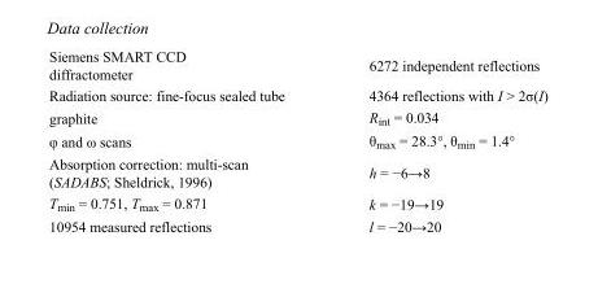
<table><tbody><tr><td>Siemens SMART CCD diffractometer</td><td>6272 independent reflections</td></tr><tr><td>Radiation source: fine-focus sealed tube</td><td>4364 reflections with I &gt; 2σ(I)</td></tr><tr><td>graphite</td><td>R<sub>int</sub> = 0.034</td></tr><tr><td>φ and ω scans</td><td>θ<sub>max</sub> = 28.3°, θ<sub>min</sub> = 1.4°</td></tr><tr><td>Absorption correction: multi-scan (SADABS; Sheldrick, 1996)</td><td>h = −6→8</td></tr><tr><td>T<sub>min</sub> = 0.751, T<sub>max</sub> = 0.871</td><td>k = −19→19</td></tr><tr><td>10954 measured reflections</td><td>l = −20→20</td></tr></tbody></table>